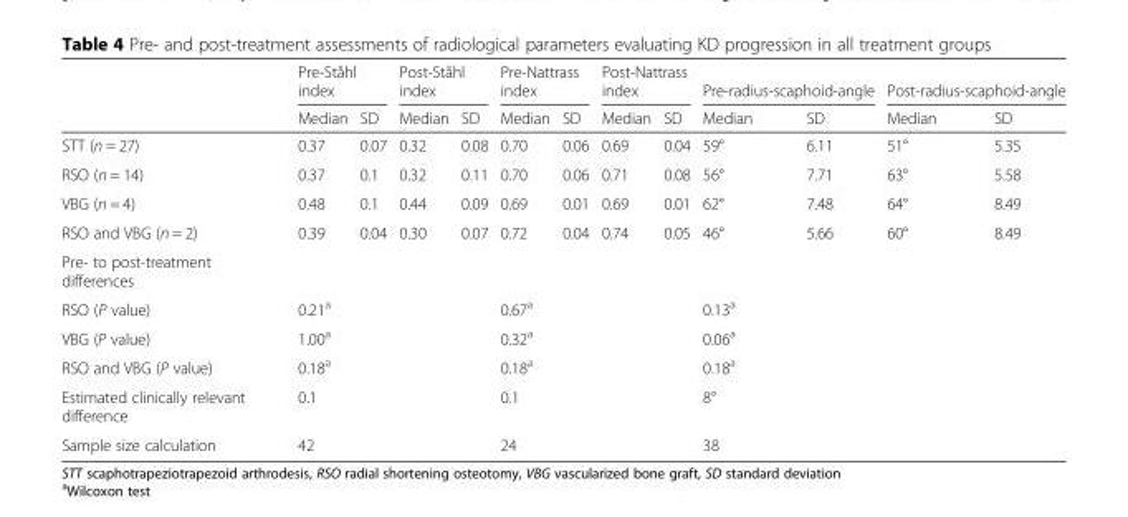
<table><thead><tr><td rowspan="2"></td><td colspan="2">Pre-Ståhl index</td><td colspan="2">Post-Ståhl index</td><td colspan="2">Pre-Nattrass index</td><td colspan="2">Post-Nattrass index</td><td colspan="2">Pre-radius-scaphoid-angle</td><td colspan="2">Post-radius-scaphoid-angle</td></tr><tr><td>Median</td><td>SD</td><td>Median</td><td>SD</td><td>Median</td><td>SD</td><td>Median</td><td>SD</td><td>Median</td><td>SD</td><td>Median</td><td>SD</td></tr></thead><tbody><tr><td>STT (n = 27)</td><td>0.37</td><td>0.07</td><td>0.32</td><td>0.08</td><td>0.70</td><td>0.06</td><td>0.69</td><td>0.04</td><td>59°</td><td>6.11</td><td>51°</td><td>5.35</td></tr><tr><td>RSO (n = 14)</td><td>0.37</td><td>0.1</td><td>0.32</td><td>0.11</td><td>0.70</td><td>0.06</td><td>0.71</td><td>0.08</td><td>56°</td><td>7.71</td><td>63°</td><td>5.58</td></tr><tr><td>VBG (n = 4)</td><td>0.48</td><td>0.1</td><td>0.44</td><td>0.09</td><td>0.69</td><td>0.01</td><td>0.69</td><td>0.01</td><td>62°</td><td>7.48</td><td>64°</td><td>8.49</td></tr><tr><td>RSO and VBG (n = 2)</td><td>0.39</td><td>0.04</td><td>0.30</td><td>0.07</td><td>0.72</td><td>0.04</td><td>0.74</td><td>0.05</td><td>46°</td><td>5.66</td><td>60°</td><td>8.49</td></tr><tr><td colspan="13">Pre- to post-treatment differences</td></tr><tr><td>RSO (P value)</td><td colspan="4">0.21<sup>a</sup></td><td colspan="4">0.67<sup>a</sup></td><td colspan="4">0.13<sup>a</sup></td></tr><tr><td>VBG (P value)</td><td colspan="4">1.00<sup>a</sup></td><td colspan="4">0.32<sup>a</sup></td><td colspan="4">0.06<sup>a</sup></td></tr><tr><td>RSO and VBG (P value)</td><td colspan="4">0.18<sup>a</sup></td><td colspan="4">0.18<sup>a</sup></td><td colspan="4">0.18<sup>a</sup></td></tr><tr><td>Estimated clinically relevant difference</td><td colspan="4">0.1</td><td colspan="4">0.1</td><td colspan="4">8°</td></tr><tr><td>Sample size calculation</td><td colspan="4">42</td><td colspan="4">24</td><td colspan="4">38</td></tr></tbody></table>